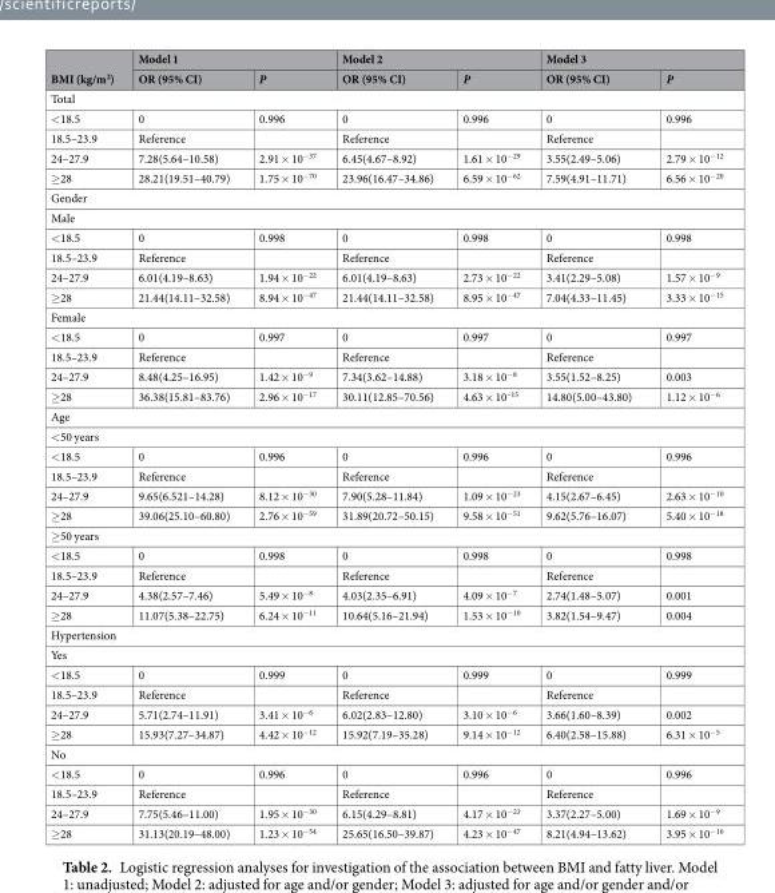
<table><thead><tr><td rowspan="2">BMI (kg/m<sup>2</sup>)</td><td colspan="2">Model 1</td><td colspan="2">Model 2</td><td colspan="2">Model 3</td></tr><tr><td>OR (95% CI)</td><td>P</td><td>OR (95% CI)</td><td>P</td><td>OR (95% CI)</td><td>P</td></tr></thead><tbody><tr><td colspan="7">Total</td></tr><tr><td>&lt;18.5</td><td>0</td><td>0.996</td><td>0</td><td>0.996</td><td>0</td><td>0.996</td></tr><tr><td>18.5–23.9</td><td>Reference</td><td></td><td>Reference</td><td></td><td>Reference</td><td></td></tr><tr><td>24–27.9</td><td>7.28(5.64–10.58)</td><td>2.91 × 10<sup>−37</sup></td><td>6.45(4.67–8.92)</td><td>1.61 × 10<sup>−29</sup></td><td>3.55(2.49–5.06)</td><td>2.79 × 10<sup>−12</sup></td></tr><tr><td>≥28</td><td>28.21(19.51–40.79)</td><td>1.75 × 10<sup>−70</sup></td><td>23.96(16.47–34.86)</td><td>6.59 × 10<sup>−62</sup></td><td>7.59(4.91–11.71)</td><td>6.56 × 10<sup>−20</sup></td></tr><tr><td colspan="7">Gender</td></tr><tr><td colspan="7">Male</td></tr><tr><td>&lt;18.5</td><td>0</td><td>0.998</td><td>0</td><td>0.998</td><td>0</td><td>0.998</td></tr><tr><td>18.5–23.9</td><td>Reference</td><td></td><td>Reference</td><td></td><td>Reference</td><td></td></tr><tr><td>24–27.9</td><td>6.01(4.19–8.63)</td><td>1.94 × 10<sup>−22</sup></td><td>6.01(4.19–8.63)</td><td>2.73 × 10<sup>−22</sup></td><td>3.41(2.29–5.08)</td><td>1.57 × 10<sup>−9</sup></td></tr><tr><td>≥28</td><td>21.44(14.11–32.58)</td><td>8.94 × 10<sup>−47</sup></td><td>21.44(14.11–32.58)</td><td>8.95 × 10<sup>−47</sup></td><td>7.04(4.33–11.45)</td><td>3.33 × 10<sup>−15</sup></td></tr><tr><td colspan="7">Female</td></tr><tr><td>&lt;18.5</td><td>0</td><td>0.997</td><td>0</td><td>0.997</td><td>0</td><td>0.997</td></tr><tr><td>18.5–23.9</td><td>Reference</td><td></td><td>Reference</td><td></td><td>Reference</td><td></td></tr><tr><td>24–27.9</td><td>8.48(4.25–16.95)</td><td>1.42 × 10<sup>−9</sup></td><td>7.34(3.62–14.88)</td><td>3.18 × 10<sup>−8</sup></td><td>3.55(1.52–8.25)</td><td>0.003</td></tr><tr><td>≥28</td><td>36.38(15.81–83.76)</td><td>2.96 × 10<sup>−17</sup></td><td>30.11(12.85–70.56)</td><td>4.63 × 10<sup>–15</sup></td><td>14.80(5.00–43.80)</td><td>1.12 × 10<sup>−6</sup></td></tr><tr><td colspan="7">Age</td></tr><tr><td colspan="7">&lt;50 years</td></tr><tr><td>&lt;18.5</td><td>0</td><td>0.996</td><td>0</td><td>0.996</td><td>0</td><td>0.996</td></tr><tr><td>18.5–23.9</td><td>Reference</td><td></td><td>Reference</td><td></td><td>Reference</td><td></td></tr><tr><td>24–27.9</td><td>9.65(6.521–14.28)</td><td>8.12 × 10<sup>−30</sup></td><td>7.90(5.28–11.84)</td><td>1.09 × 10<sup>−23</sup></td><td>4.15(2.67–6.45)</td><td>2.63 × 10<sup>−10</sup></td></tr><tr><td>≥28</td><td>39.06(25.10–60.80)</td><td>2.76 × 10<sup>−59</sup></td><td>31.89(20.72–50.15)</td><td>9.58 × 10<sup>−51</sup></td><td>9.62(5.76–16.07)</td><td>5.40 × 10<sup>−18</sup></td></tr><tr><td colspan="7">≥50 years</td></tr><tr><td>&lt;18.5</td><td>0</td><td>0.998</td><td>0</td><td>0.998</td><td>0</td><td>0.998</td></tr><tr><td>18.5–23.9</td><td>Reference</td><td></td><td>Reference</td><td></td><td>Reference</td><td></td></tr><tr><td>24–27.9</td><td>4.38(2.57–7.46)</td><td>5.49 × 10<sup>−8</sup></td><td>4.03(2.35–6.91)</td><td>4.09 × 10<sup>−7</sup></td><td>2.74(1.48–5.07)</td><td>0.001</td></tr><tr><td>≥28</td><td>11.07(5.38–22.75)</td><td>6.24 × 10<sup>−11</sup></td><td>10.64(5.16–21.94)</td><td>1.53 × 10<sup>−10</sup></td><td>3.82(1.54–9.47)</td><td>0.004</td></tr><tr><td colspan="7">Hypertension</td></tr><tr><td colspan="7">Yes</td></tr><tr><td>&lt;18.5</td><td>0</td><td>0.999</td><td>0</td><td>0.999</td><td>0</td><td>0.999</td></tr><tr><td>18.5–23.9</td><td>Reference</td><td></td><td>Reference</td><td></td><td>Reference</td><td></td></tr><tr><td>24–27.9</td><td>5.71(2.74–11.91)</td><td>3.41 × 10<sup>−6</sup></td><td>6.02(2.83–12.80)</td><td>3.10 × 10<sup>−6</sup></td><td>3.66(1.60–8.39)</td><td>0.002</td></tr><tr><td>≥28</td><td>15.93(7.27–34.87)</td><td>4.42 × 10<sup>−12</sup></td><td>15.92(7.19–35.28)</td><td>9.14 × 10<sup>−12</sup></td><td>6.40(2.58–15.88)</td><td>6.31 × 10<sup>−5</sup></td></tr><tr><td colspan="7">No</td></tr><tr><td>&lt;18.5</td><td>0</td><td>0.996</td><td>0</td><td>0.996</td><td>0</td><td>0.996</td></tr><tr><td>18.5–23.9</td><td>Reference</td><td></td><td>Reference</td><td></td><td>Reference</td><td></td></tr><tr><td>24–27.9</td><td>7.75(5.46–11.00)</td><td>1.95 × 10<sup>−30</sup></td><td>6.15(4.29–8.81)</td><td>4.17 × 10<sup>−23</sup></td><td>3.37(2.27–5.00)</td><td>1.69 × 10<sup>−9</sup></td></tr><tr><td>≥28</td><td>31.13(20.19–48.00)</td><td>1.23 × 10<sup>−54</sup></td><td>25.65(16.50–39.87)</td><td>4.23 × 10<sup>−47</sup></td><td>8.21(4.94–13.62)</td><td>3.95 × 10<sup>−16</sup></td></tr></tbody></table>